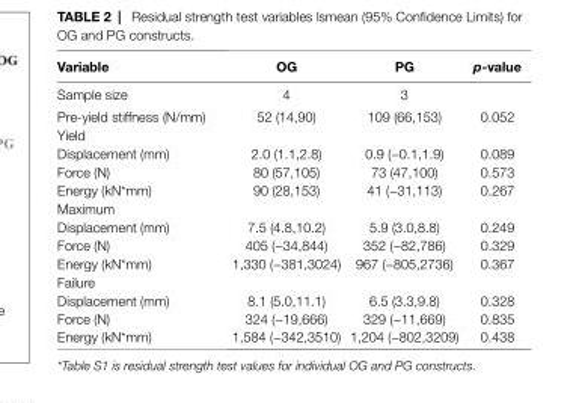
<table><thead><tr><td>Variable</td><td>Og</td><td>Pg</td><td>p-value</td></tr></thead><tbody><tr><td>Sample size</td><td>4</td><td>3</td><td></td></tr><tr><td>Pre-yield stiffness (N/mm)</td><td>52 (14,90)</td><td>109 (66,153)</td><td>0.052</td></tr><tr><td colspan="4">Yield</td></tr><tr><td>Displacement (mm)</td><td>2.0 (1.1,2.8)</td><td>0.9 (−0.1,1.9)</td><td>0.089</td></tr><tr><td>Force (N)</td><td>80 (57,105)</td><td>73 (47,100)</td><td>0.573</td></tr><tr><td>Energy (kN*mm)</td><td>90 (28,153)</td><td>41 (−31,113)</td><td>0.267</td></tr><tr><td colspan="4">Maximum</td></tr><tr><td>Displacement (mm)</td><td>7.5 (4.8,10.2)</td><td>5.9 (3.0,8.8)</td><td>0.249</td></tr><tr><td>Force (N)</td><td>405 (−34,844)</td><td>352 (−82,786)</td><td>0.329</td></tr><tr><td>Energy (kN*mm)</td><td>1,330 (−381,3024)</td><td>967 (−805,2736)</td><td>0.367</td></tr><tr><td colspan="4">Failure</td></tr><tr><td>Displacement (mm)</td><td>8.1 (5.0,11.1)</td><td>6.5 (3.3,9.8)</td><td>0.328</td></tr><tr><td>Force (N)</td><td>324 (−19,666)</td><td>329 (−11,669)</td><td>0.835</td></tr><tr><td>Energy (kN*mm)</td><td>1,584 (−342,3510)</td><td>1,204 (−802,3209)</td><td>0.438</td></tr></tbody></table>